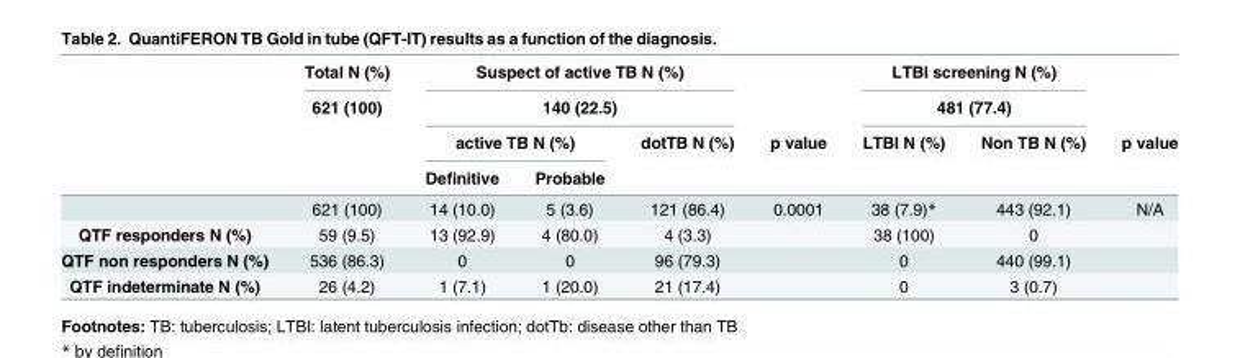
<table><thead><tr><td rowspan="4"></td><td rowspan="4">Total N (%) 621 (100)</td><td rowspan="2" colspan="3">Suspect of active TB N (%) 140 (22.5)</td><td rowspan="4">p value</td><td rowspan="2" colspan="2">LTBI screening N (%) 481 (77.4)</td><td rowspan="4">p value</td></tr><tr></tr><tr><td colspan="2">active TB N (%)</td><td rowspan="2">dotTB N (%)</td><td rowspan="2">LTBI N (%)</td><td rowspan="2">Non TB N (%)</td></tr><tr><td>Definitive</td><td>Probable</td></tr></thead><tbody><tr><td></td><td>621 (100)</td><td>14 (10.0)</td><td>5 (3.6)</td><td>121 (86.4)</td><td>0.0001</td><td>38 (7.9)*</td><td>443 (92.1)</td><td>N/A</td></tr><tr><td>QTF responders N (%)</td><td>59 (9.5)</td><td>13 (92.9)</td><td>4 (80.0)</td><td>4 (3.3)</td><td></td><td>38 (100)</td><td>0</td><td></td></tr><tr><td>QTF non responders N (%)</td><td>536 (86.3)</td><td>0</td><td>0</td><td>96 (79.3)</td><td></td><td>0</td><td>440 (99.1)</td><td></td></tr><tr><td>QTF indeterminate N (%)</td><td>26 (4.2)</td><td>1 (7.1)</td><td>1 (20.0)</td><td>21 (17.4)</td><td></td><td>0</td><td>3 (0.7)</td><td></td></tr></tbody></table>